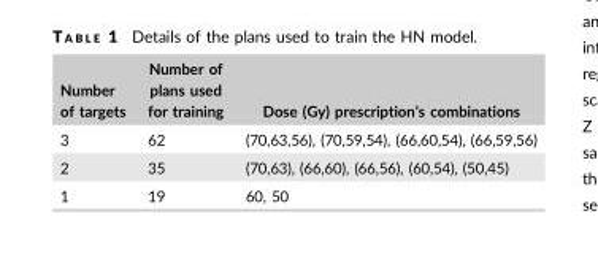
<table><thead><tr><td>Number of targets</td><td>Number of plans used for training</td><td>Dose (Gy) prescription’s combinations</td></tr></thead><tbody><tr><td>3</td><td>62</td><td>(70,63,56), (70,59,54), (66,60,54), (66,59,56)</td></tr><tr><td>2</td><td>35</td><td>(70,63), (66,60), (66,56), (60,54), (50,45)</td></tr><tr><td>1</td><td>19</td><td>60, 50</td></tr></tbody></table>